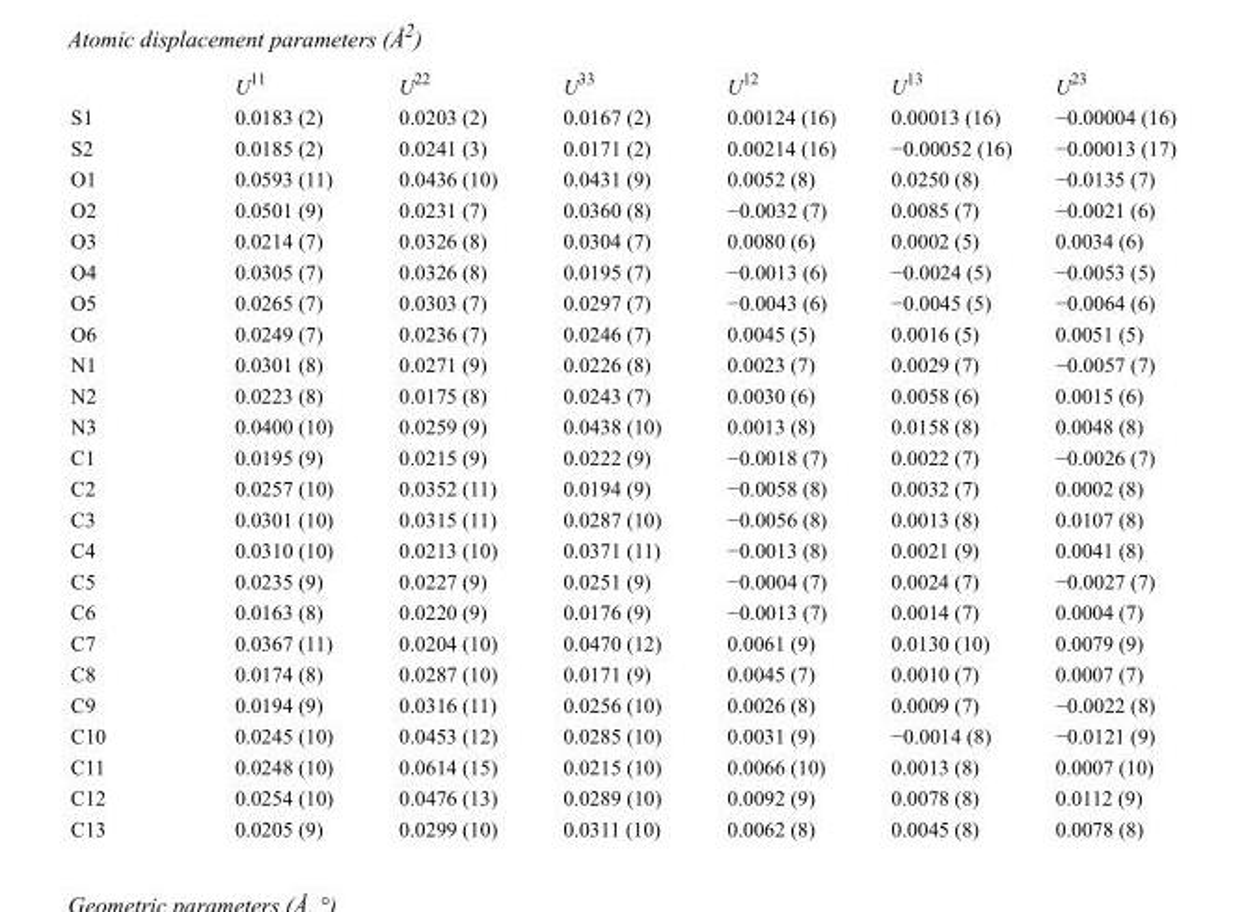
<table><thead><tr><td></td><td>U<sup>11</sup></td><td>U<sup>22</sup></td><td>U<sup>33</sup></td><td>U<sup>12</sup></td><td>U<sup>13</sup></td><td>U<sup>23</sup></td></tr></thead><tbody><tr><td>S1</td><td>0.0183 (2)</td><td>0.0203 (2)</td><td>0.0167 (2)</td><td>0.00124 (16)</td><td>0.00013 (16)</td><td>−0.00004 (16)</td></tr><tr><td>S2</td><td>0.0185 (2)</td><td>0.0241 (3)</td><td>0.0171 (2)</td><td>0.00214 (16)</td><td>−0.00052 (16)</td><td>−0.00013 (17)</td></tr><tr><td>O1</td><td>0.0593 (11)</td><td>0.0436 (10)</td><td>0.0431 (9)</td><td>0.0052 (8)</td><td>0.0250 (8)</td><td>−0.0135 (7)</td></tr><tr><td>O2</td><td>0.0501 (9)</td><td>0.0231 (7)</td><td>0.0360 (8)</td><td>−0.0032 (7)</td><td>0.0085 (7)</td><td>−0.0021 (6)</td></tr><tr><td>O3</td><td>0.0214 (7)</td><td>0.0326 (8)</td><td>0.0304 (7)</td><td>0.0080 (6)</td><td>0.0002 (5)</td><td>0.0034 (6)</td></tr><tr><td>O4</td><td>0.0305 (7)</td><td>0.0326 (8)</td><td>0.0195 (7)</td><td>−0.0013 (6)</td><td>−0.0024 (5)</td><td>−0.0053 (5)</td></tr><tr><td>O5</td><td>0.0265 (7)</td><td>0.0303 (7)</td><td>0.0297 (7)</td><td>−0.0043 (6)</td><td>−0.0045 (5)</td><td>−0.0064 (6)</td></tr><tr><td>O6</td><td>0.0249 (7)</td><td>0.0236 (7)</td><td>0.0246 (7)</td><td>0.0045 (5)</td><td>0.0016 (5)</td><td>0.0051 (5)</td></tr><tr><td>N1</td><td>0.0301 (8)</td><td>0.0271 (9)</td><td>0.0226 (8)</td><td>0.0023 (7)</td><td>0.0029 (7)</td><td>−0.0057 (7)</td></tr><tr><td>N2</td><td>0.0223 (8)</td><td>0.0175 (8)</td><td>0.0243 (7)</td><td>0.0030 (6)</td><td>0.0058 (6)</td><td>0.0015 (6)</td></tr><tr><td>N3</td><td>0.0400 (10)</td><td>0.0259 (9)</td><td>0.0438 (10)</td><td>0.0013 (8)</td><td>0.0158 (8)</td><td>0.0048 (8)</td></tr><tr><td>C1</td><td>0.0195 (9)</td><td>0.0215 (9)</td><td>0.0222 (9)</td><td>−0.0018 (7)</td><td>0.0022 (7)</td><td>−0.0026 (7)</td></tr><tr><td>C2</td><td>0.0257 (10)</td><td>0.0352 (11)</td><td>0.0194 (9)</td><td>−0.0058 (8)</td><td>0.0032 (7)</td><td>0.0002 (8)</td></tr><tr><td>C3</td><td>0.0301 (10)</td><td>0.0315 (11)</td><td>0.0287 (10)</td><td>−0.0056 (8)</td><td>0.0013 (8)</td><td>0.0107 (8)</td></tr><tr><td>C4</td><td>0.0310 (10)</td><td>0.0213 (10)</td><td>0.0371 (11)</td><td>−0.0013 (8)</td><td>0.0021 (9)</td><td>0.0041 (8)</td></tr><tr><td>C5</td><td>0.0235 (9)</td><td>0.0227 (9)</td><td>0.0251 (9)</td><td>−0.0004 (7)</td><td>0.0024 (7)</td><td>−0.0027 (7)</td></tr><tr><td>C6</td><td>0.0163 (8)</td><td>0.0220 (9)</td><td>0.0176 (9)</td><td>−0.0013 (7)</td><td>0.0014 (7)</td><td>0.0004 (7)</td></tr><tr><td>C7</td><td>0.0367 (11)</td><td>0.0204 (10)</td><td>0.0470 (12)</td><td>0.0061 (9)</td><td>0.0130 (10)</td><td>0.0079 (9)</td></tr><tr><td>C8</td><td>0.0174 (8)</td><td>0.0287 (10)</td><td>0.0171 (9)</td><td>0.0045 (7)</td><td>0.0010 (7)</td><td>0.0007 (7)</td></tr><tr><td>C9</td><td>0.0194 (9)</td><td>0.0316 (11)</td><td>0.0256 (10)</td><td>0.0026 (8)</td><td>0.0009 (7)</td><td>−0.0022 (8)</td></tr><tr><td>C10</td><td>0.0245 (10)</td><td>0.0453 (12)</td><td>0.0285 (10)</td><td>0.0031 (9)</td><td>−0.0014 (8)</td><td>−0.0121 (9)</td></tr><tr><td>C11</td><td>0.0248 (10)</td><td>0.0614 (15)</td><td>0.0215 (10)</td><td>0.0066 (10)</td><td>0.0013 (8)</td><td>0.0007 (10)</td></tr><tr><td>C12</td><td>0.0254 (10)</td><td>0.0476 (13)</td><td>0.0289 (10)</td><td>0.0092 (9)</td><td>0.0078 (8)</td><td>0.0112 (9)</td></tr><tr><td>C13</td><td>0.0205 (9)</td><td>0.0299 (10)</td><td>0.0311 (10)</td><td>0.0062 (8)</td><td>0.0045 (8)</td><td>0.0078 (8)</td></tr></tbody></table>